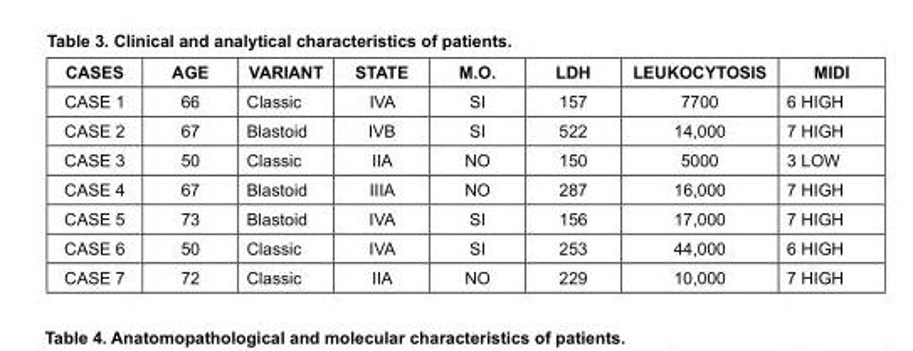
<table><thead><tr><td>CASES</td><td>AGE</td><td>VARIANT</td><td>STATE</td><td>M.O.</td><td>LDH</td><td>LEUKOCYTOSIS</td><td>MIDI</td></tr></thead><tbody><tr><td>CASE 1</td><td>66</td><td>Classic</td><td>IVA</td><td>SI</td><td>157</td><td>7700</td><td>6 HIGH</td></tr><tr><td>CASE 2</td><td>67</td><td>Blastoid</td><td>IVB</td><td>SI</td><td>522</td><td>14,000</td><td>7 HIGH</td></tr><tr><td>CASE 3</td><td>50</td><td>Classic</td><td>IIA</td><td>NO</td><td>150</td><td>5000</td><td>3 LOW</td></tr><tr><td>CASE 4</td><td>67</td><td>Blastoid</td><td>IIIA</td><td>NO</td><td>287</td><td>16,000</td><td>7 HIGH</td></tr><tr><td>CASE 5</td><td>73</td><td>Blastoid</td><td>IVA</td><td>SI</td><td>156</td><td>17,000</td><td>7 HIGH</td></tr><tr><td>CASE 6</td><td>50</td><td>Classic</td><td>IVA</td><td>SI</td><td>253</td><td>44,000</td><td>6 HIGH</td></tr><tr><td>CASE 7</td><td>72</td><td>Classic</td><td>IIA</td><td>NO</td><td>229</td><td>10,000</td><td>7 HIGH</td></tr></tbody></table>